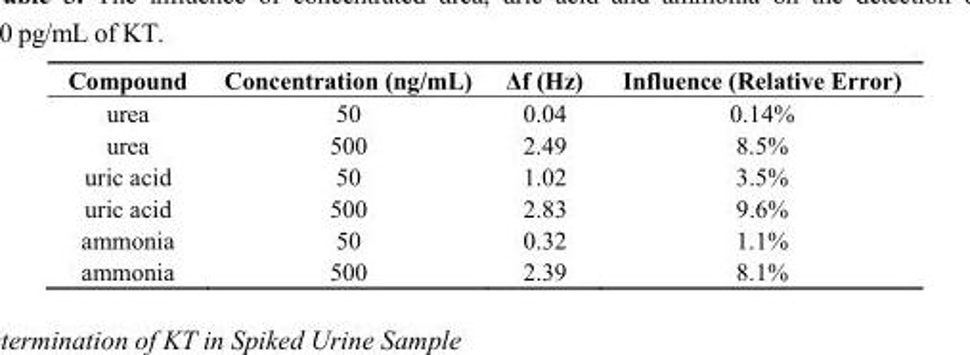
<table><thead><tr><td>Compound</td><td>Concentration (ng/mL)</td><td>Δf (Hz)</td><td>Influence (Relative Error)</td></tr></thead><tbody><tr><td>urea</td><td>50</td><td>0.04</td><td>0.14%</td></tr><tr><td>urea</td><td>500</td><td>2.49</td><td>8.5%</td></tr><tr><td>uric acid</td><td>50</td><td>1.02</td><td>3.5%</td></tr><tr><td>uric acid</td><td>500</td><td>2.83</td><td>9.6%</td></tr><tr><td>ammonia</td><td>50</td><td>0.32</td><td>1.1%</td></tr><tr><td>ammonia</td><td>500</td><td>2.39</td><td>8.1%</td></tr></tbody></table>